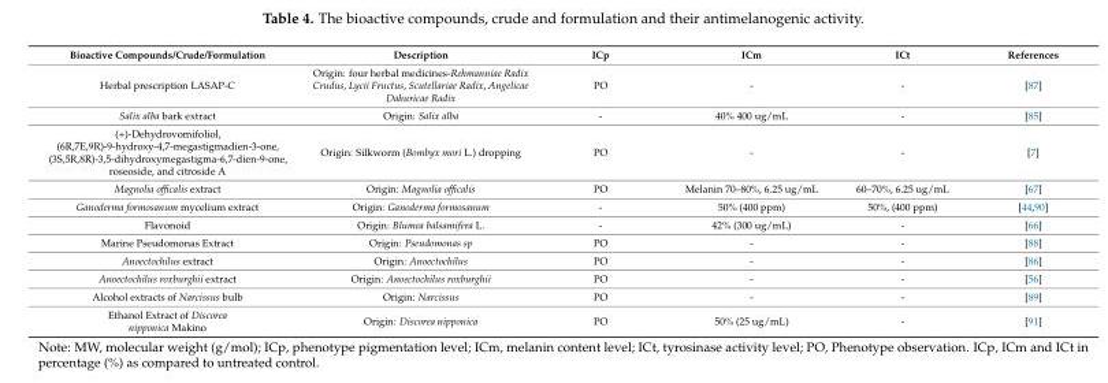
<table><thead><tr><td>Bioactive Compounds/Crude/Formulation</td><td>Description</td><td>ICp</td><td>ICm</td><td>ICt</td><td>References</td></tr></thead><tbody><tr><td>Herbal prescription LASAP-C</td><td>Origin: four herbal medicines-Rehmanniae Radix Crudus, Lycii Fructus, Scutellariae Radix, Angelicae Dahuricae Radix</td><td>PO</td><td>-</td><td>-</td><td>[87]</td></tr><tr><td>Salix alba bark extract</td><td>Origin: Salix alba</td><td>-</td><td>40% 400 ug/mL</td><td>-</td><td>[85]</td></tr><tr><td>(+)-Dehydrovomifoliol, (6R,7E,9R)-9-hydroxy-4,7-megastigmadien-3-one, (3S,5R,8R)-3,5-dihydroxymegastigma-6,7-dien-9-one, roseoside, and citroside A</td><td>Origin: Silkworm (Bombyx mori L.) dropping</td><td>PO</td><td>-</td><td>-</td><td>[7]</td></tr><tr><td>Magnolia officalis extract</td><td>Origin: Magnolia officalis</td><td>PO</td><td>Melanin 70–80%, 6.25 ug/mL</td><td>60–70%, 6.25 ug/mL</td><td>[67]</td></tr><tr><td>Ganoderma formosanum mycelium extract</td><td>Origin: Ganoderma formosanum</td><td>-</td><td>50% (400 ppm)</td><td>50%, (400 ppm)</td><td>[44,90]</td></tr><tr><td>Flavonoid</td><td>Origin: Blumea balsamifera L.</td><td>-</td><td>42% (300 ug/mL)</td><td>-</td><td>[66]</td></tr><tr><td>Marine Pseudomonas Extract</td><td>Origin: Pseudomonas sp</td><td>PO</td><td>-</td><td>-</td><td>[88]</td></tr><tr><td>Anoectochilus extract</td><td>Origin: Anoectochilus</td><td>PO</td><td>-</td><td>-</td><td>[86]</td></tr><tr><td>Anoectochilus roxburghii extract</td><td>Origin: Anoectochilus roxburghii</td><td>PO</td><td>-</td><td>-</td><td>[56]</td></tr><tr><td>Alcohol extracts of Narcissus bulb</td><td>Origin: Narcissus</td><td>PO</td><td>-</td><td>-</td><td>[89]</td></tr><tr><td>Ethanol Extract of Discorea nipponica Makino</td><td>Origin: Discorea nipponica</td><td>PO</td><td>50% (25 ug/mL)</td><td>-</td><td>[91]</td></tr></tbody></table>